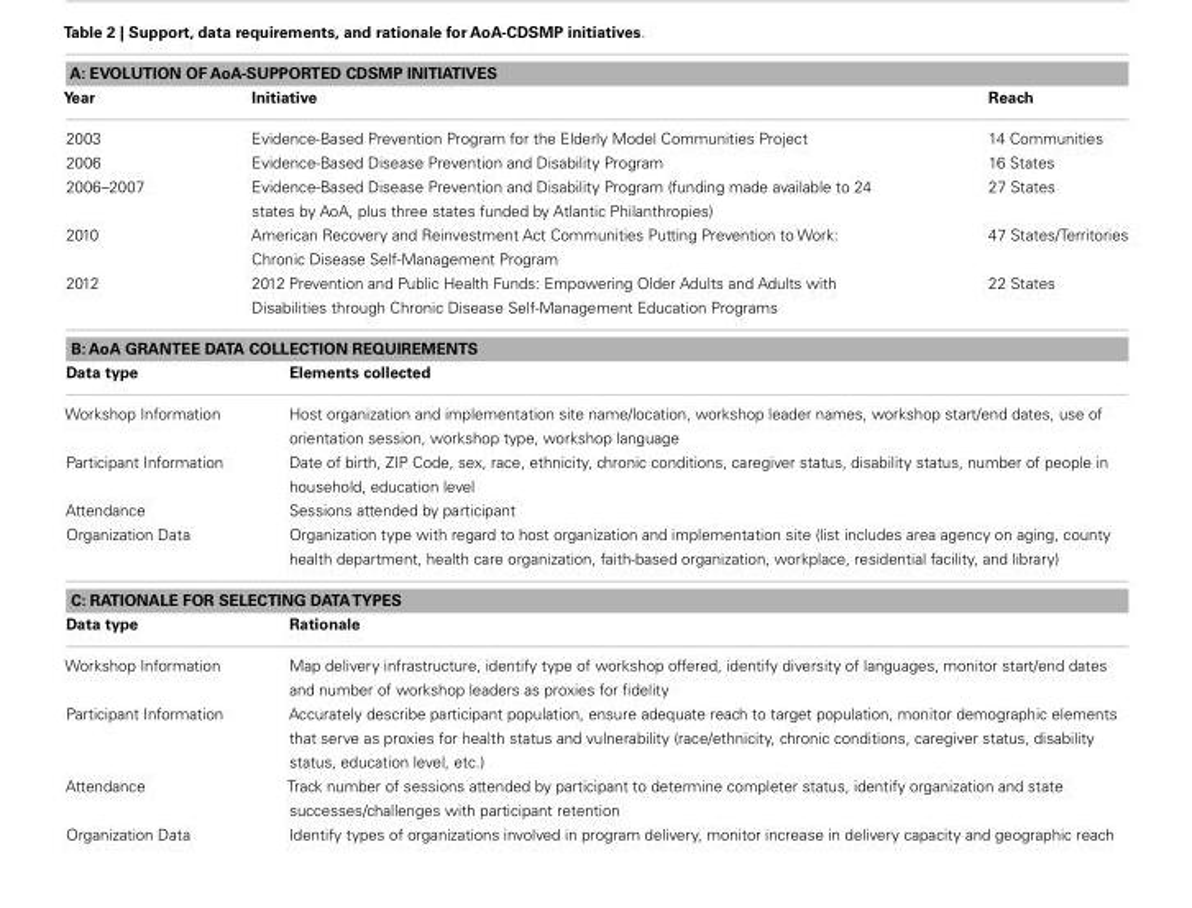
<table><thead><tr><td colspan="3">A: EVOLUTION OF AoA-SUPPORTED CDSMP INITIATIVES</td></tr><tr><td>Year</td><td>Initiative</td><td>Reach</td></tr></thead><tbody><tr><td>2003</td><td>Evidence-Based Prevention Program for the Elderly Model Communities Project</td><td>14 Communities</td></tr><tr><td>2006</td><td>Evidence-Based Disease Prevention and Disability Program</td><td>16 States</td></tr><tr><td>2006–2007</td><td>Evidence-Based Disease Prevention and Disability Program (funding made available to 24 states by AoA, plus three states funded by Atlantic Philanthropies)</td><td>27 States</td></tr><tr><td>2010</td><td>American Recovery and Reinvestment Act Communities Putting Prevention to Work: Chronic Disease Self-Management Program</td><td>47 States/Territories</td></tr><tr><td>2012</td><td>2012 Prevention and Public Health Funds: Empowering Older Adults and Adults with Disabilities through Chronic Disease Self-Management Education Programs</td><td>22 States</td></tr><tr><td colspan="3">B: AoA GRANTEE DATA COLLECTION REQUIREMENTS</td></tr><tr><td>Data type</td><td colspan="2">Elements collected</td></tr><tr><td>Workshop Information</td><td colspan="2">Host organization and implementation site name/location, workshop leader names, workshop start/end dates, use of orientation session, workshop type, workshop language</td></tr><tr><td>Participant Information</td><td colspan="2">Date of birth, ZIP Code, sex, race, ethnicity, chronic conditions, caregiver status, disability status, number of people in household, education level</td></tr><tr><td>Attendance</td><td colspan="2">Sessions attended by participant</td></tr><tr><td>Organization Data</td><td colspan="2">Organization type with regard to host organization and implementation site (list includes area agency on aging, county health department, health care organization, faith-based organization, workplace, residential facility, and library)</td></tr><tr><td colspan="3">C: RATIONALE FOR SELECTING DATATYPES</td></tr><tr><td>Data type</td><td colspan="2">Rationale</td></tr><tr><td>Workshop Information</td><td colspan="2">Map delivery infrastructure, identify type of workshop offered, identify diversity of languages, monitor start/end dates and number of workshop leaders as proxies for fidelity</td></tr><tr><td>Participant Information</td><td colspan="2">Accurately describe participant population, ensure adequate reach to target population, monitor demographic elements that serve as proxies for health status and vulnerability (race/ethnicity, chronic conditions, caregiver status, disability status, education level, etc.)</td></tr><tr><td>Attendance</td><td colspan="2">Track number of sessions attended by participant to determine completer status, identify organization and state successes/challenges with participant retention</td></tr><tr><td>Organization Data</td><td colspan="2">Identify types of organizations involved in program delivery, monitor increase in delivery capacity and geographic reach</td></tr></tbody></table>